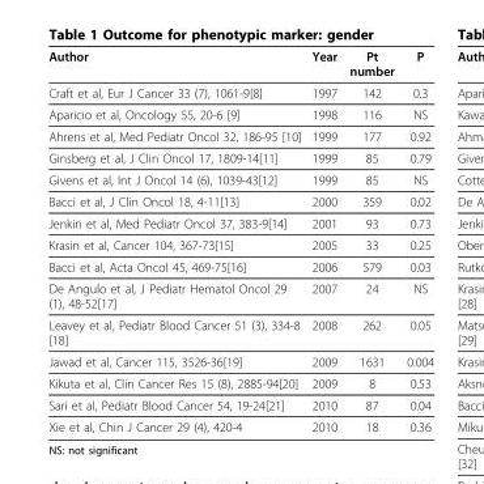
<table><thead><tr><td>Author</td><td>Year</td><td>Pt number</td><td>P</td></tr></thead><tbody><tr><td>Craft et al, Eur J Cancer 33 (7), 1061-9[8]</td><td>1997</td><td>142</td><td>0.3</td></tr><tr><td>Aparicio et al, Oncology 55, 20-6 [9]</td><td>1998</td><td>116</td><td>NS</td></tr><tr><td>Ahrens et al, Med Pediatr Oncol 32, 186-95 [10]</td><td>1999</td><td>177</td><td>0.92</td></tr><tr><td>Ginsberg et al, J Clin Oncol 17, 1809-14[11]</td><td>1999</td><td>85</td><td>0.79</td></tr><tr><td>Givens et al, Int J Oncol 14 (6), 1039-43[12]</td><td>1999</td><td>85</td><td>NS</td></tr><tr><td>Bacci et al, J Clin Oncol 18, 4-11[13]</td><td>2000</td><td>359</td><td>0.02</td></tr><tr><td>Jenkin et al, Med Pediatr Oncol 37, 383-9[14]</td><td>2001</td><td>93</td><td>0.73</td></tr><tr><td>Krasin et al, Cancer 104, 367-73[15]</td><td>2005</td><td>33</td><td>0.25</td></tr><tr><td>Bacci et al, Acta Oncol 45, 469-75[16]</td><td>2006</td><td>579</td><td>0.03</td></tr><tr><td>De Angulo et al, J Pediatr Hematol Oncol 29 (1), 48-52[17]</td><td>2007</td><td>24</td><td>NS</td></tr><tr><td>Leavey et al, Pediatr Blood Cancer 51 (3), 334-8 [18]</td><td>2008</td><td>262</td><td>0.05</td></tr><tr><td>Jawad et al, Cancer 115, 3526-36[19]</td><td>2009</td><td>1631</td><td>0.004</td></tr><tr><td>Kikuta et al, Clin Cancer Res 15 (8), 2885-94[20]</td><td>2009</td><td>8</td><td>0.53</td></tr><tr><td>Sari et al, Pediatr Blood Cancer 54, 19-24[21]</td><td>2010</td><td>87</td><td>0.04</td></tr><tr><td>Xie et al, Chin J Cancer 29 (4), 420-4</td><td>2010</td><td>18</td><td>0.36</td></tr></tbody></table>